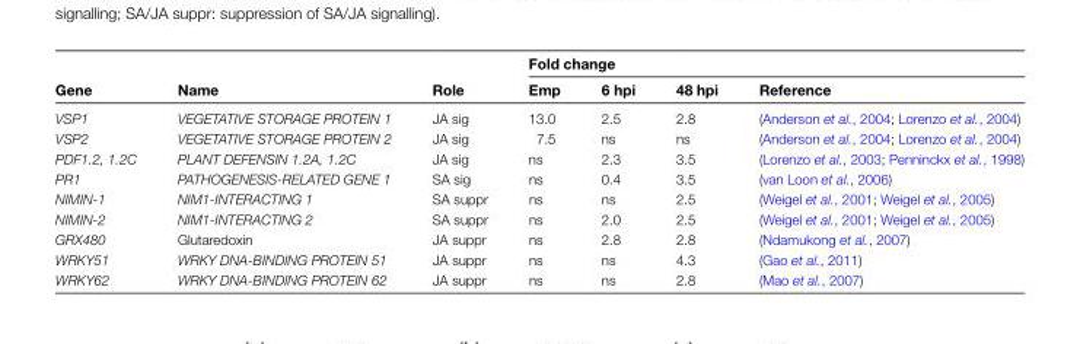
<table><thead><tr><td rowspan="2">Gene</td><td rowspan="2">Name</td><td rowspan="2">Role</td><td colspan="3">Fold change</td><td rowspan="2">Reference</td></tr><tr><td>Emp</td><td>6 hpi</td><td>48 hpi</td></tr></thead><tbody><tr><td>VSP1</td><td>VEGETATIVE STORAGE PROTEIN 1</td><td>JA sig</td><td>13.0</td><td>2.5</td><td>2.8</td><td>(Anderson et al., 2004; Lorenzo et al., 2004)</td></tr><tr><td>VSP2</td><td>VEGETATIVE STORAGE PROTEIN 2</td><td>JA sig</td><td>7.5</td><td>ns</td><td>ns</td><td>(Anderson et al., 2004; Lorenzo et al., 2004)</td></tr><tr><td>PDF1.2, 1.2C</td><td>PLANT DEFENSIN 1.2A, 1.2C</td><td>JA sig</td><td>ns</td><td>2.3</td><td>3.5</td><td>(Lorenzo et al., 2003; Penninckx et al., 1998)</td></tr><tr><td>PR1</td><td>PATHOGENESIS-RELATED GENE 1</td><td>SA sig</td><td>ns</td><td>0.4</td><td>3.5</td><td>(van Loon et al., 2006)</td></tr><tr><td>NIMIN-1</td><td>NIM1-INTERACTING 1</td><td>SA suppr</td><td>ns</td><td>ns</td><td>2.5</td><td>(Weigel et al., 2001; Weigel et al., 2005)</td></tr><tr><td>NIMIN-2</td><td>NIM1-INTERACTING 2</td><td>SA suppr</td><td>ns</td><td>2.0</td><td>2.5</td><td>(Weigel et al., 2001; Weigel et al., 2005)</td></tr><tr><td>GRX480</td><td>Glutaredoxin</td><td>JA suppr</td><td>ns</td><td>2.8</td><td>2.8</td><td>(Ndamukong et al., 2007)</td></tr><tr><td>WRKY51</td><td>WRKY DNA-BINDING PROTEIN 51</td><td>JA suppr</td><td>ns</td><td>ns</td><td>4.3</td><td>(Gao et al., 2011)</td></tr><tr><td>WRKY62</td><td>WRKY DNA-BINDING PROTEIN 62</td><td>JA suppr</td><td>ns</td><td>ns</td><td>2.8</td><td>(Mao et al., 2007)</td></tr></tbody></table>